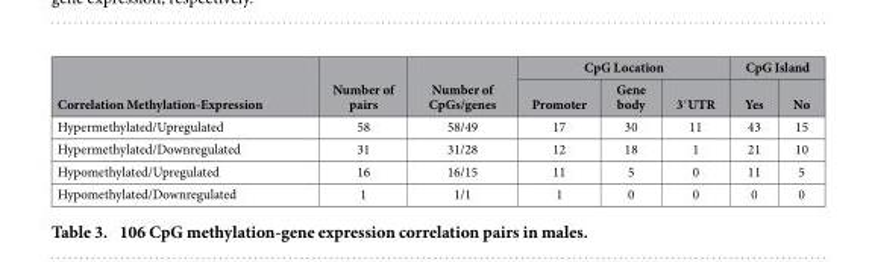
<table><thead><tr><td rowspan="2">Correlation Methylation-Expression</td><td rowspan="2">Number of pairs</td><td rowspan="2">Number of CpGs/genes</td><td colspan="3">CpG Location</td><td colspan="2">CpG Island</td></tr><tr><td>Promoter</td><td>Gene body</td><td>3′ UTR</td><td>Yes</td><td>No</td></tr></thead><tbody><tr><td>Hypermethylated/Upregulated</td><td>58</td><td>58/49</td><td>17</td><td>30</td><td>11</td><td>43</td><td>15</td></tr><tr><td>Hypermethylated/Downregulated</td><td>31</td><td>31/28</td><td>12</td><td>18</td><td>1</td><td>21</td><td>10</td></tr><tr><td>Hypomethylated/Upregulated</td><td>16</td><td>16/15</td><td>11</td><td>5</td><td>0</td><td>11</td><td>5</td></tr><tr><td>Hypomethylated/Downregulated</td><td>1</td><td>1/1</td><td>1</td><td>0</td><td>0</td><td>0</td><td>0</td></tr></tbody></table>